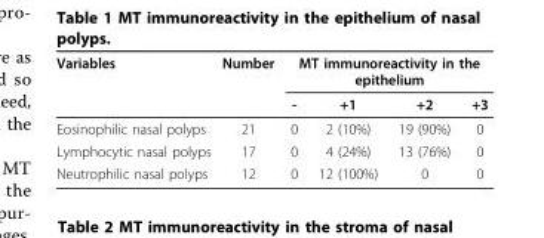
<table><thead><tr><td rowspan="2">Variables</td><td rowspan="2">Number</td><td colspan="4">MT immunoreactivity in the epithelium</td></tr><tr><td>-</td><td>+1</td><td>+2</td><td>+3</td></tr></thead><tbody><tr><td>Eosinophilic nasal polyps</td><td>21</td><td>0</td><td>2 (10%)</td><td>19 (90%)</td><td>0</td></tr><tr><td>Lymphocytic nasal polyps</td><td>17</td><td>0</td><td>4 (24%)</td><td>13 (76%)</td><td>0</td></tr><tr><td>Neutrophilic nasal polyps</td><td>12</td><td>0</td><td>12 (100%)</td><td>0</td><td>0</td></tr></tbody></table>